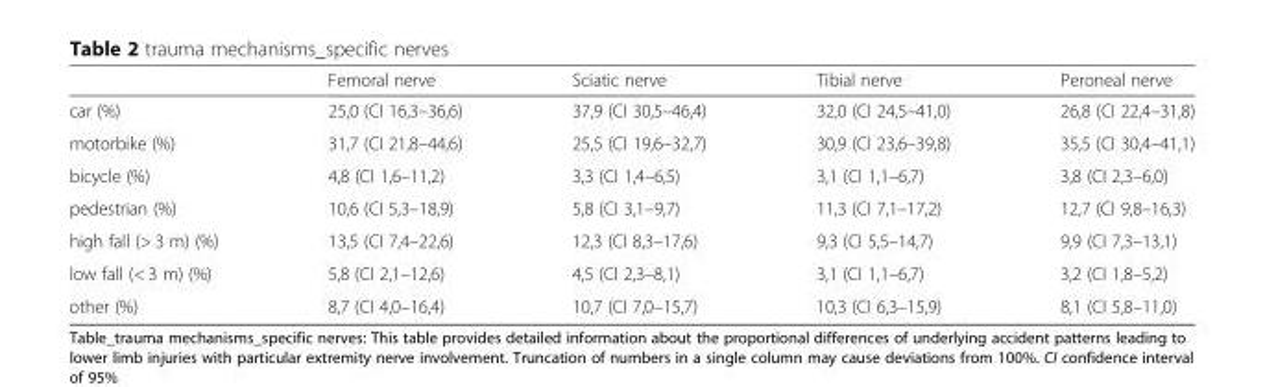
<table><thead><tr><td></td><td>Femoral nerve</td><td>Sciatic nerve</td><td>Tibial nerve</td><td>Peroneal nerve</td></tr></thead><tbody><tr><td>car (%)</td><td>25,0 (CI 16,3–36,6)</td><td>37,9 (CI 30,5–46,4)</td><td>32,0 (CI 24,5–41,0)</td><td>26,8 (CI 22,4–31,8)</td></tr><tr><td>motorbike (%)</td><td>31,7 (CI 21,8–44,6)</td><td>25,5 (CI 19,6–32,7)</td><td>30,9 (CI 23,6–39,8)</td><td>35,5 (CI 30,4–41,1)</td></tr><tr><td>bicycle (%)</td><td>4,8 (CI 1,6–11,2)</td><td>3,3 (CI 1,4–6,5)</td><td>3,1 (CI 1,1–6,7)</td><td>3,8 (CI 2,3–6,0)</td></tr><tr><td>pedestrian (%)</td><td>10,6 (CI 5,3–18,9)</td><td>5,8 (CI 3,1–9,7)</td><td>11,3 (CI 7,1–17,2)</td><td>12,7 (CI 9,8–16,3)</td></tr><tr><td>high fall (&gt; 3 m) (%)</td><td>13,5 (CI 7,4–22,6)</td><td>12,3 (CI 8,3–17,6)</td><td>9,3 (CI 5,5–14,7)</td><td>9,9 (CI 7,3–13,1)</td></tr><tr><td>low fall (&lt; 3 m) (%)</td><td>5,8 (CI 2,1–12,6)</td><td>4,5 (CI 2,3–8,1)</td><td>3,1 (CI 1,1–6,7)</td><td>3,2 (CI 1,8–5,2)</td></tr><tr><td>other (%)</td><td>8,7 (CI 4,0–16,4)</td><td>10,7 (CI 7,0–15,7)</td><td>10,3 (CI 6,3–15,9)</td><td>8,1 (CI 5,8–11,0)</td></tr></tbody></table>